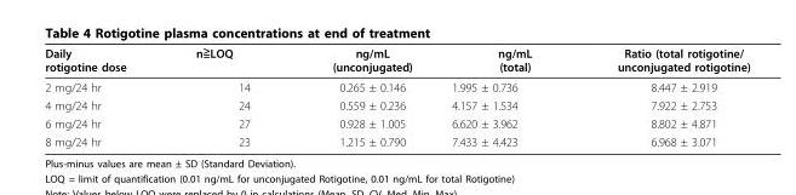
<table><thead><tr><td>Daily rotigotine dose</td><td>n≧LOQ</td><td>ng/mL (unconjugated)</td><td>ng/mL (total)</td><td>Ratio (total rotigotine/ unconjugated rotigotine)</td></tr></thead><tbody><tr><td>2 mg/24 hr</td><td>14</td><td>0.265 ± 0.146</td><td>1.995 ± 0.736</td><td>8.447 ± 2.919</td></tr><tr><td>4 mg/24 hr</td><td>24</td><td>0.559 ± 0.236</td><td>4.157 ± 1.534</td><td>7.922 ± 2.753</td></tr><tr><td>6 mg/24 hr</td><td>27</td><td>0.928 ± 1.005</td><td>6.620 ± 3.962</td><td>8.802 ± 4.871</td></tr><tr><td>8 mg/24 hr</td><td>23</td><td>1.215 ± 0.790</td><td>7.433 ± 4.423</td><td>6.968 ± 3.071</td></tr></tbody></table>